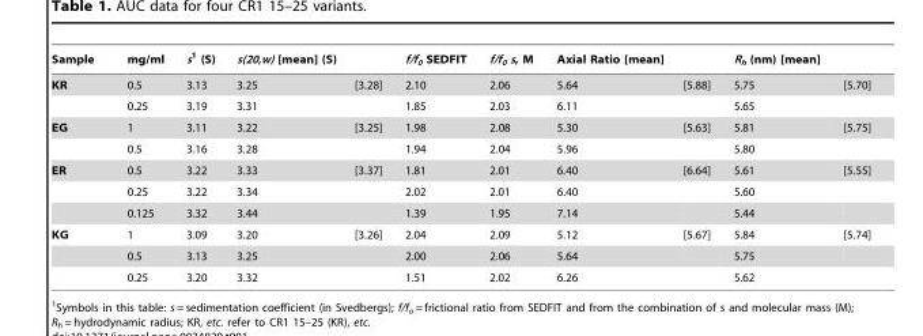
<table><thead><tr><td>Sample</td><td>mg/ml</td><td>s1 (S)</td><td>s(20,w) [mean] (S)</td><td></td><td>f/f<sub>0</sub> SEDFIT</td><td>f/f<sub>0</sub> s, M</td><td>Axial Ratio [mean]</td><td></td><td>R<sub>h</sub> (nm) [mean]</td><td></td></tr></thead><tbody><tr><td rowspan="2">KR</td><td>0.5</td><td>3.13</td><td>3.25</td><td>[3.28]</td><td>2.10</td><td>2.06</td><td>5.64</td><td>[5.88]</td><td>5.75</td><td>[5.70]</td></tr><tr><td>0.25</td><td>3.19</td><td>3.31</td><td></td><td>1.85</td><td>2.03</td><td>6.11</td><td></td><td>5.65</td><td></td></tr><tr><td rowspan="2">EG</td><td>1</td><td>3.11</td><td>3.22</td><td>[3.25]</td><td>1.98</td><td>2.08</td><td>5.30</td><td>[5.63]</td><td>5.81</td><td>[5.75]</td></tr><tr><td>0.5</td><td>3.16</td><td>3.28</td><td></td><td>1.94</td><td>2.04</td><td>5.96</td><td></td><td>5.80</td><td></td></tr><tr><td rowspan="3">ER</td><td>0.5</td><td>3.22</td><td>3.33</td><td>[3.37]</td><td>1.81</td><td>2.01</td><td>6.40</td><td>[6.64]</td><td>5.61</td><td>[5.55]</td></tr><tr><td>0.25</td><td>3.22</td><td>3.34</td><td></td><td>2.02</td><td>2.01</td><td>6.40</td><td></td><td>5.60</td><td></td></tr><tr><td>0.125</td><td>3.32</td><td>3.44</td><td></td><td>1.39</td><td>1.95</td><td>7.14</td><td></td><td>5.44</td><td></td></tr><tr><td rowspan="3">KG</td><td>1</td><td>3.09</td><td>3.20</td><td>[3.26]</td><td>2.04</td><td>2.09</td><td>5.12</td><td>[5.67]</td><td>5.84</td><td>[5.74]</td></tr><tr><td>0.5</td><td>3.13</td><td>3.25</td><td></td><td>2.00</td><td>2.06</td><td>5.64</td><td></td><td>5.75</td><td></td></tr><tr><td>0.25</td><td>3.20</td><td>3.32</td><td></td><td>1.51</td><td>2.02</td><td>6.26</td><td></td><td>5.62</td><td></td></tr></tbody></table>